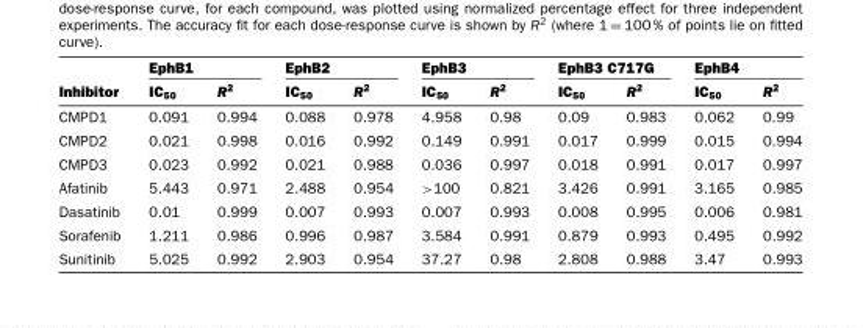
<table><thead><tr><td rowspan="2">Inhibitor</td><td colspan="2">EphB1</td><td colspan="2">EphB2</td><td colspan="2">EphB3</td><td colspan="2">EphB3 C717G</td><td colspan="2">EphB4</td></tr><tr><td>IC<sub>50</sub></td><td>R<sup>2</sup></td><td>IC<sub>50</sub></td><td>R<sup>2</sup></td><td>IC<sub>50</sub></td><td>R<sup>2</sup></td><td>IC<sub>50</sub></td><td>R<sup>2</sup></td><td>IC<sub>50</sub></td><td>R<sup>2</sup></td></tr></thead><tbody><tr><td>CMPD1</td><td>0.091</td><td>0.994</td><td>0.088</td><td>0.978</td><td>4.958</td><td>0.98</td><td>0.09</td><td>0.983</td><td>0.062</td><td>0.99</td></tr><tr><td>CMPD2</td><td>0.021</td><td>0.998</td><td>0.016</td><td>0.992</td><td>0.149</td><td>0.991</td><td>0.017</td><td>0.999</td><td>0.015</td><td>0.994</td></tr><tr><td>CMPD3</td><td>0.023</td><td>0.992</td><td>0.021</td><td>0.988</td><td>0.036</td><td>0.997</td><td>0.018</td><td>0.991</td><td>0.017</td><td>0.997</td></tr><tr><td>Afatinib</td><td>5.443</td><td>0.971</td><td>2.488</td><td>0.954</td><td>&gt;100</td><td>0.821</td><td>3.426</td><td>0.991</td><td>3.165</td><td>0.985</td></tr><tr><td>Dasatinib</td><td>0.01</td><td>0.999</td><td>0.007</td><td>0.993</td><td>0.007</td><td>0.993</td><td>0.008</td><td>0.995</td><td>0.006</td><td>0.981</td></tr><tr><td>Sorafenib</td><td>1.211</td><td>0.986</td><td>0.996</td><td>0.987</td><td>3.584</td><td>0.991</td><td>0.879</td><td>0.993</td><td>0.495</td><td>0.992</td></tr><tr><td>Sunitinib</td><td>5.025</td><td>0.992</td><td>2.903</td><td>0.954</td><td>37.27</td><td>0.98</td><td>2.808</td><td>0.988</td><td>3.47</td><td>0.993</td></tr></tbody></table>